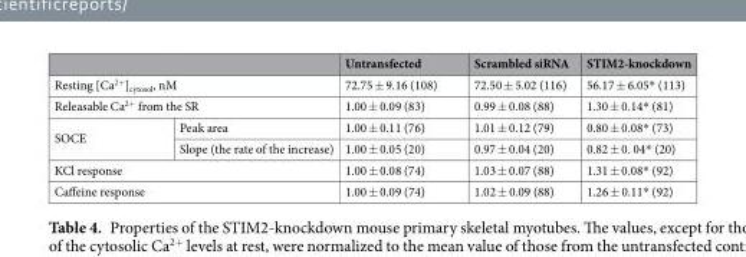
<table><thead><tr><td></td><td></td><td>Untransfected</td><td>Scrambled siRNA</td><td>STIM2-knockdown</td></tr></thead><tbody><tr><td colspan="2">Resting [Ca<sup>2+</sup>]<sub>cytosol</sub>, nM</td><td>72.75 ± 9.16 (108)</td><td>72.50 ± 5.02 (116)</td><td>56.17 ± 6.05* (113)</td></tr><tr><td colspan="2">Releasable Ca<sup>2+</sup> from the SR</td><td>1.00 ± 0.09 (83)</td><td>0.99 ± 0.08 (88)</td><td>1.30 ± 0.14* (81)</td></tr><tr><td rowspan="2">SOCE</td><td>Peak area</td><td>1.00 ± 0.11 (76)</td><td>1.01 ± 0.12 (79)</td><td>0.80 ± 0.08* (73)</td></tr><tr><td>Slope (the rate of the increase)</td><td>1.00 ± 0.05 (20)</td><td>0.97 ± 0.04 (20)</td><td>0.82 ± 0. 04* (20)</td></tr><tr><td colspan="2">KCl response</td><td>1.00 ± 0.08 (74)</td><td>1.03 ± 0.07 (88)</td><td>1.31 ± 0.08* (92)</td></tr><tr><td colspan="2">Caffeine response</td><td>1.00 ± 0.09 (74)</td><td>1.02 ± 0.09 (88)</td><td>1.26 ± 0.11* (92)</td></tr></tbody></table>